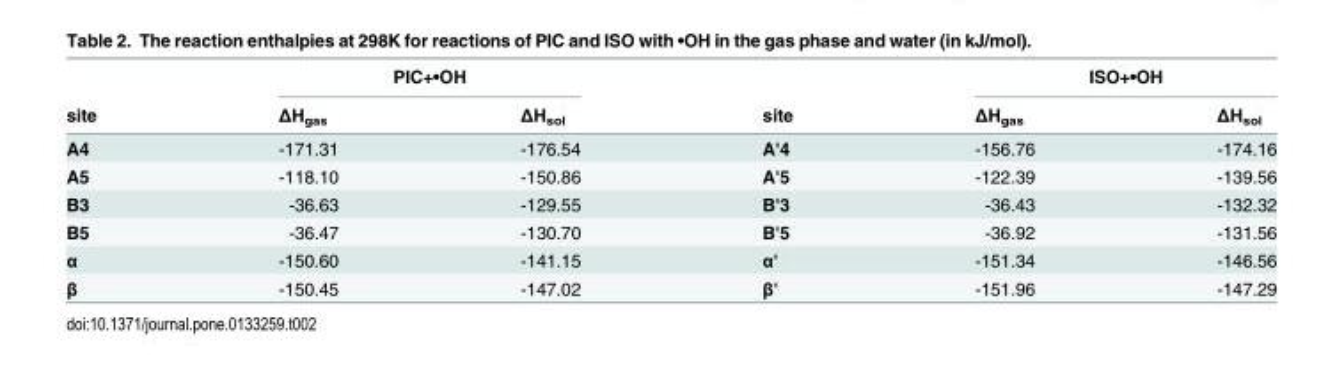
<table><thead><tr><td rowspan="2">site</td><td colspan="2">PIC+•OH</td><td rowspan="2">site</td><td colspan="2">ISO+•OH</td></tr><tr><td>ΔH<sub>gas</sub></td><td>ΔH<sub>sol</sub></td><td>ΔH<sub>gas</sub></td><td>ΔH<sub>sol</sub></td></tr></thead><tbody><tr><td>A4</td><td>-171.31</td><td>-176.54</td><td>A&#x27;4</td><td>-156.76</td><td>-174.16</td></tr><tr><td>A5</td><td>-118.10</td><td>-150.86</td><td>A&#x27;5</td><td>-122.39</td><td>-139.56</td></tr><tr><td>B3</td><td>-36.63</td><td>-129.55</td><td>B&#x27;3</td><td>-36.43</td><td>-132.32</td></tr><tr><td>B5</td><td>-36.47</td><td>-130.70</td><td>B&#x27;5</td><td>-36.92</td><td>-131.56</td></tr><tr><td>α</td><td>-150.60</td><td>-141.15</td><td>α&#x27;</td><td>-151.34</td><td>-146.56</td></tr><tr><td>β</td><td>-150.45</td><td>-147.02</td><td>β&#x27;</td><td>-151.96</td><td>-147.29</td></tr></tbody></table>